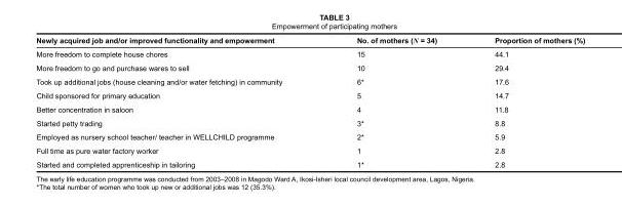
<table><thead><tr><td>Newly acquired job and/or improved functionality and empowerment</td><td>No. of mothers (N = 34)</td><td>Proportion of mothers (%)</td></tr></thead><tbody><tr><td>More freedom to complete house chores</td><td>15</td><td>44.1</td></tr><tr><td>More freedom to go and purchase wares to sell</td><td>10</td><td>29.4</td></tr><tr><td>Took up additional jobs (house cleaning and/or water fetching) in community</td><td>6*</td><td>17.6</td></tr><tr><td>Child sponsored for primary education</td><td>5</td><td>14.7</td></tr><tr><td>Better concentration in saloon</td><td>4</td><td>11.8</td></tr><tr><td>Started petty trading</td><td>3*</td><td>8.8</td></tr><tr><td>Employed as nursery school teacher/ teacher in WELLCHILD programme</td><td>2*</td><td>5.9</td></tr><tr><td>Full time as pure water factory worker</td><td>1</td><td>2.8</td></tr><tr><td>Started and completed apprenticeship in tailoring</td><td>1*</td><td>2.8</td></tr></tbody></table>